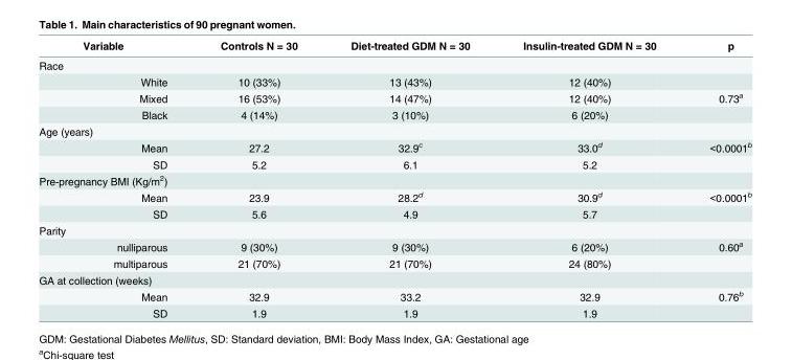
<table><thead><tr><td>Variable</td><td>Controls N = 30</td><td>Diet-treated GDM N = 30</td><td>Insulin-treated GDM N = 30</td><td>p</td></tr></thead><tbody><tr><td colspan="5">Race</td></tr><tr><td>White</td><td>10 (33%)</td><td>13 (43%)</td><td>12 (40%)</td><td></td></tr><tr><td>Mixed</td><td>16 (53%)</td><td>14 (47%)</td><td>12 (40%)</td><td>0.73<sup>a</sup></td></tr><tr><td>Black</td><td>4 (14%)</td><td>3 (10%)</td><td>6 (20%)</td><td></td></tr><tr><td colspan="5">Age (years)</td></tr><tr><td>Mean</td><td>27.2</td><td>32.9<sup>c</sup></td><td>33.0<sup>d</sup></td><td>&lt;0.0001<sup>b</sup></td></tr><tr><td>SD</td><td>5.2</td><td>6.1</td><td>5.2</td><td></td></tr><tr><td colspan="5">Pre-pregnancy BMI (Kg/m<sup>2</sup>)</td></tr><tr><td>Mean</td><td>23.9</td><td>28.2<sup>d</sup></td><td>30.9<sup>d</sup></td><td>&lt;0.0001<sup>b</sup></td></tr><tr><td>SD</td><td>5.6</td><td>4.9</td><td>5.7</td><td></td></tr><tr><td colspan="5">Parity</td></tr><tr><td>nulliparous</td><td>9 (30%)</td><td>9 (30%)</td><td>6 (20%)</td><td>0.60<sup>a</sup></td></tr><tr><td>multiparous</td><td>21 (70%)</td><td>21 (70%)</td><td>24 (80%)</td><td></td></tr><tr><td colspan="5">GA at collection (weeks)</td></tr><tr><td>Mean</td><td>32.9</td><td>33.2</td><td>32.9</td><td>0.76<sup>b</sup></td></tr><tr><td>SD</td><td>1.9</td><td>1.9</td><td>1.9</td><td></td></tr></tbody></table>